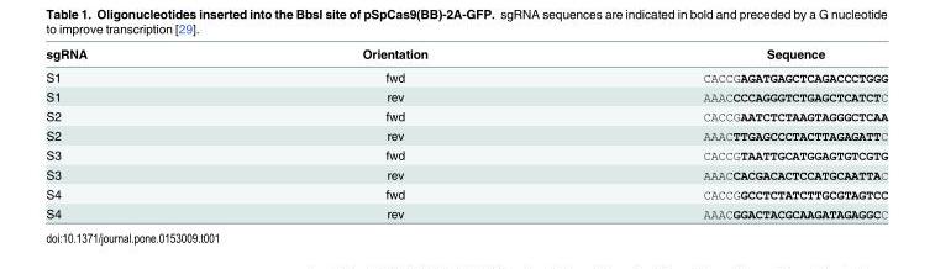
<table><thead><tr><td>sgRNA</td><td>Orientation</td><td>Sequence</td></tr></thead><tbody><tr><td>S1</td><td>fwd</td><td>CACCGAGATGAGCTCAGACCCTGGG</td></tr><tr><td>S1</td><td>rev</td><td>AAACCCCAGGGTCTGAGCTCATCTC</td></tr><tr><td>S2</td><td>fwd</td><td>CACCGAATCTCTAAGTAGGGCTCAA</td></tr><tr><td>S2</td><td>rev</td><td>AAACTTGAGCCCTACTTAGAGATTC</td></tr><tr><td>S3</td><td>fwd</td><td>CACCGTAATTGCATGGAGTGTCGTG</td></tr><tr><td>S3</td><td>rev</td><td>AAACCACGACACTCCATGCAATTAC</td></tr><tr><td>S4</td><td>fwd</td><td>CACCGGCCTCTATCTTGCGTAGTCC</td></tr><tr><td>S4</td><td>rev</td><td>AAACGGACTACGCAAGATAGAGGCC</td></tr></tbody></table>